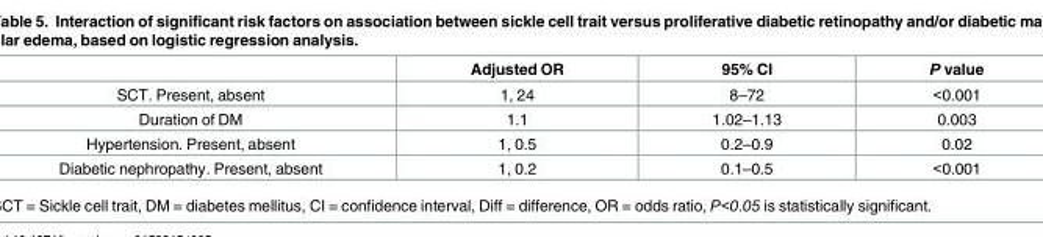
<table><thead><tr><td></td><td>Adjusted OR</td><td>95% CI</td><td>P value</td></tr></thead><tbody><tr><td>SCT. Present, absent</td><td>1, 24</td><td>8–72</td><td>&lt;0.001</td></tr><tr><td>Duration of DM</td><td>1.1</td><td>1.02–1.13</td><td>0.003</td></tr><tr><td>Hypertension. Present, absent</td><td>1, 0.5</td><td>0.2–0.9</td><td>0.02</td></tr><tr><td>Diabetic nephropathy. Present, absent</td><td>1, 0.2</td><td>0.1–0.5</td><td>&lt;0.001</td></tr></tbody></table>